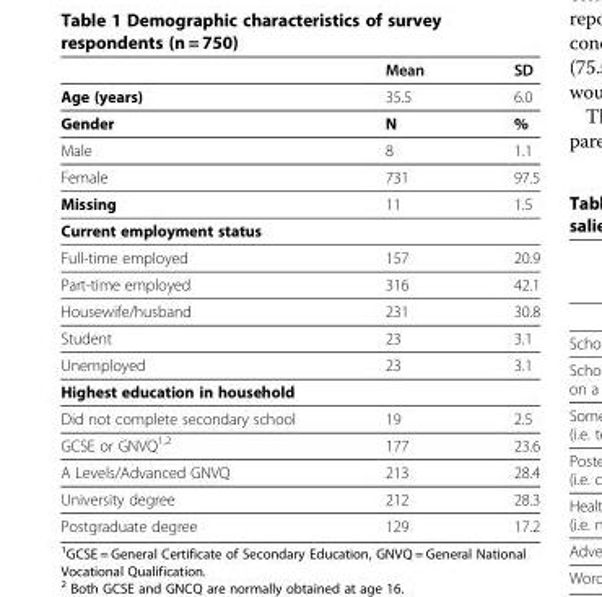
<table><thead><tr><td></td><td>Mean</td><td>SD</td></tr></thead><tbody><tr><td>Age (years)</td><td>35.5</td><td>6.0</td></tr><tr><td>Gender</td><td>N</td><td>%</td></tr><tr><td>Male</td><td>8</td><td>1.1</td></tr><tr><td>Female</td><td>731</td><td>97.5</td></tr><tr><td>Missing</td><td>11</td><td>1.5</td></tr><tr><td colspan="3">Current employment status</td></tr><tr><td>Full-time employed</td><td>157</td><td>20.9</td></tr><tr><td>Part-time employed</td><td>316</td><td>42.1</td></tr><tr><td>Housewife/husband</td><td>231</td><td>30.8</td></tr><tr><td>Student</td><td>23</td><td>3.1</td></tr><tr><td>Unemployed</td><td>23</td><td>3.1</td></tr><tr><td colspan="3">Highest education in household</td></tr><tr><td>Did not complete secondary school</td><td>19</td><td>2.5</td></tr><tr><td>GCSE or GNVQ<sup>1,2</sup></td><td>177</td><td>23.6</td></tr><tr><td>A Levels/Advanced GNVQ</td><td>213</td><td>28.4</td></tr><tr><td>University degree</td><td>212</td><td>28.3</td></tr><tr><td>Postgraduate degree</td><td>129</td><td>17.2</td></tr></tbody></table>